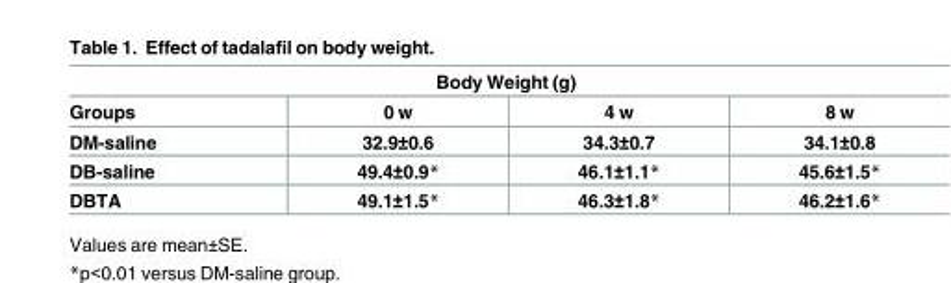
<table><thead><tr><td colspan="4">Body Weight (g)</td></tr><tr><td>Groups</td><td>0 w</td><td>4 w</td><td>8 w</td></tr></thead><tbody><tr><td>DM-saline</td><td>32.9±0.6</td><td>34.3±0.7</td><td>34.1±0.8</td></tr><tr><td>DB-saline</td><td>49.4±0.9*</td><td>46.1±1.1*</td><td>45.6±1.5*</td></tr><tr><td>DBTA</td><td>49.1±1.5*</td><td>46.3±1.8*</td><td>46.2±1.6*</td></tr></tbody></table>